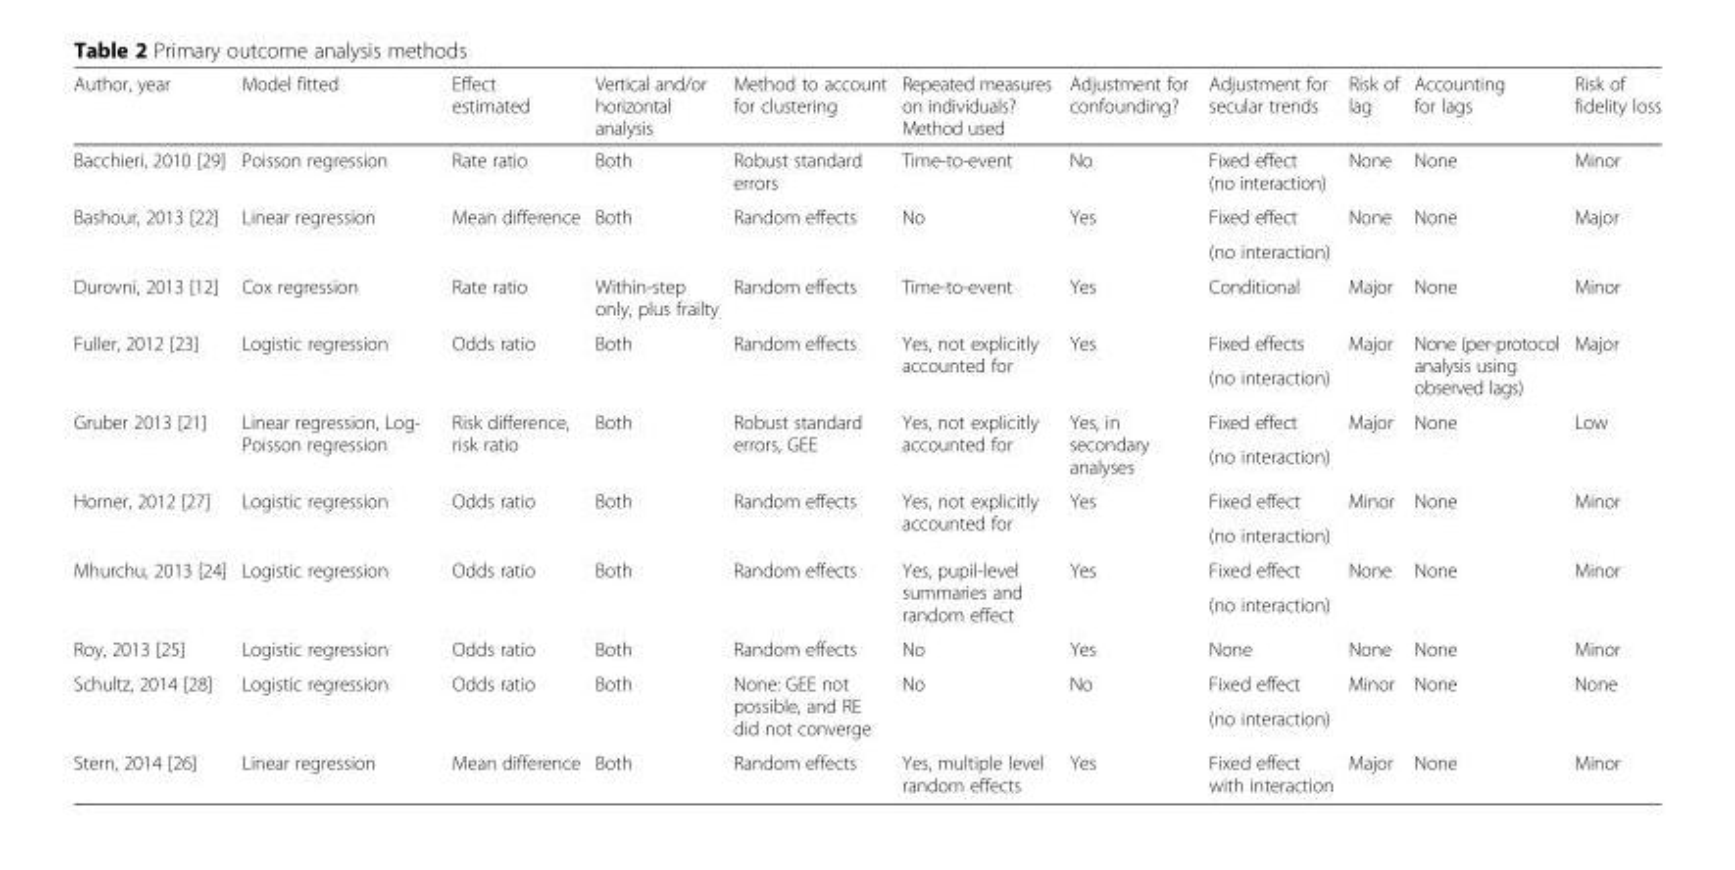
<table><thead><tr><td>Author, year</td><td>Model fitted</td><td>Effect estimated</td><td>Vertical and/or horizontal analysis</td><td>Method to account for clustering</td><td>Repeated measures on individuals? Method used</td><td>Adjustment for confounding?</td><td>Adjustment for secular trends</td><td>Risk of lag</td><td>Accounting for lags</td><td>Risk of fidelity loss</td></tr></thead><tbody><tr><td>Bacchieri, 2010 [29]</td><td>Poisson regression</td><td>Rate ratio</td><td>Both</td><td>Robust standard errors</td><td>Time-to-event</td><td>No</td><td>Fixed effect (no interaction)</td><td>None</td><td>None</td><td>Minor</td></tr><tr><td rowspan="2">Bashour, 2013 [22]</td><td rowspan="2">Linear regression</td><td rowspan="2">Mean difference</td><td rowspan="2">Both</td><td rowspan="2">Random effects</td><td rowspan="2">No</td><td rowspan="2">Yes</td><td>Fixed effect</td><td rowspan="2">None</td><td rowspan="2">None</td><td rowspan="2">Major</td></tr><tr><td>(no interaction)</td></tr><tr><td>Durovni, 2013 [12]</td><td>Cox regression</td><td>Rate ratio</td><td>Within-step only, plus frailty</td><td>Random effects</td><td>Time-to-event</td><td>Yes</td><td>Conditional</td><td>Major</td><td>None</td><td>Minor</td></tr><tr><td rowspan="2">Fuller, 2012 [23]</td><td rowspan="2">Logistic regression</td><td rowspan="2">Odds ratio</td><td rowspan="2">Both</td><td rowspan="2">Random effects</td><td rowspan="2">Yes, not explicitly accounted for</td><td rowspan="2">Yes</td><td>Fixed effects</td><td rowspan="2">Major</td><td rowspan="2">None (per-protocol analysis using observed lags)</td><td rowspan="2">Major</td></tr><tr><td>(no interaction)</td></tr><tr><td rowspan="2">Gruber 2013 [21]</td><td rowspan="2">Linear regression, Log- Poisson regression</td><td rowspan="2">Risk difference, risk ratio</td><td rowspan="2">Both</td><td rowspan="2">Robust standard errors, GEE</td><td rowspan="2">Yes, not explicitly accounted for</td><td rowspan="2">Yes, in secondary analyses</td><td>Fixed effect</td><td rowspan="2">Major</td><td rowspan="2">None</td><td rowspan="2">Low</td></tr><tr><td>(no interaction)</td></tr><tr><td rowspan="2">Horner, 2012 [27]</td><td rowspan="2">Logistic regression</td><td rowspan="2">Odds ratio</td><td rowspan="2">Both</td><td rowspan="2">Random effects</td><td rowspan="2">Yes, not explicitly accounted for</td><td rowspan="2">Yes</td><td>Fixed effect</td><td rowspan="2">Minor</td><td rowspan="2">None</td><td rowspan="2">Minor</td></tr><tr><td>(no interaction)</td></tr><tr><td rowspan="2">Mhurchu, 2013 [24]</td><td rowspan="2">Logistic regression</td><td rowspan="2">Odds ratio</td><td rowspan="2">Both</td><td rowspan="2">Random effects</td><td rowspan="2">Yes, pupil-level summaries and random effect</td><td rowspan="2">Yes</td><td>Fixed effect</td><td rowspan="2">None</td><td rowspan="2">None</td><td rowspan="2">Minor</td></tr><tr><td>(no interaction)</td></tr><tr><td>Roy, 2013 [25]</td><td>Logistic regression</td><td>Odds ratio</td><td>Both</td><td>Random effects</td><td>No</td><td>Yes</td><td>None</td><td>None</td><td>None</td><td>Minor</td></tr><tr><td rowspan="2">Schultz, 2014 [28]</td><td rowspan="2">Logistic regression</td><td rowspan="2">Odds ratio</td><td rowspan="2">Both</td><td rowspan="2">None: GEE not possible, and RE did not converge</td><td rowspan="2">No</td><td rowspan="2">No</td><td>Fixed effect</td><td rowspan="2">Minor</td><td rowspan="2">None</td><td rowspan="2">None</td></tr><tr><td>(no interaction)</td></tr><tr><td>Stern, 2014 [26]</td><td>Linear regression</td><td>Mean difference</td><td>Both</td><td>Random effects</td><td>Yes, multiple level random effects</td><td>Yes</td><td>Fixed effect with interaction</td><td>Major</td><td>None</td><td>Minor</td></tr></tbody></table>